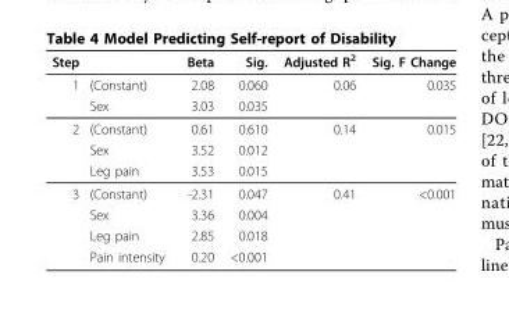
<table><thead><tr><td>Step</td><td></td><td>Beta</td><td>Sig.</td><td>Adjusted R<sup>2</sup></td><td>Sig. F Change</td></tr></thead><tbody><tr><td rowspan="2">1</td><td>(Constant)</td><td>2.08</td><td>0.060</td><td>0.06</td><td>0.035</td></tr><tr><td>Sex</td><td>3.03</td><td>0.035</td><td></td><td></td></tr><tr><td rowspan="3">2</td><td>(Constant)</td><td>0.61</td><td>0.610</td><td>0.14</td><td>0.015</td></tr><tr><td>Sex</td><td>3.52</td><td>0.012</td><td></td><td></td></tr><tr><td>Leg pain</td><td>3.53</td><td>0.015</td><td></td><td></td></tr><tr><td rowspan="4">3</td><td>(Constant)</td><td>-2.31</td><td>0.047</td><td>0.41</td><td>&lt;0.001</td></tr><tr><td>Sex</td><td>3.36</td><td>0.004</td><td></td><td></td></tr><tr><td>Leg pain</td><td>2.85</td><td>0.018</td><td></td><td></td></tr><tr><td>Pain intensity</td><td>0.20</td><td>&lt;0.001</td><td></td><td></td></tr></tbody></table>